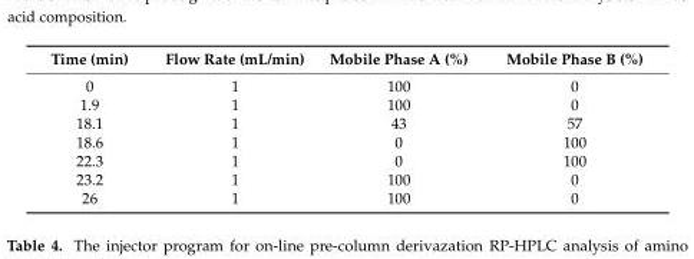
<table><thead><tr><td>Time (min)</td><td>Flow Rate (mL/min)</td><td>Mobile Phase A (%)</td><td>Mobile Phase B (%)</td></tr></thead><tbody><tr><td>0</td><td>1</td><td>100</td><td>0</td></tr><tr><td>1.9</td><td>1</td><td>100</td><td>0</td></tr><tr><td>18.1</td><td>1</td><td>43</td><td>57</td></tr><tr><td>18.6</td><td>1</td><td>0</td><td>100</td></tr><tr><td>22.3</td><td>1</td><td>0</td><td>100</td></tr><tr><td>23.2</td><td>1</td><td>100</td><td>0</td></tr><tr><td>26</td><td>1</td><td>100</td><td>0</td></tr></tbody></table>